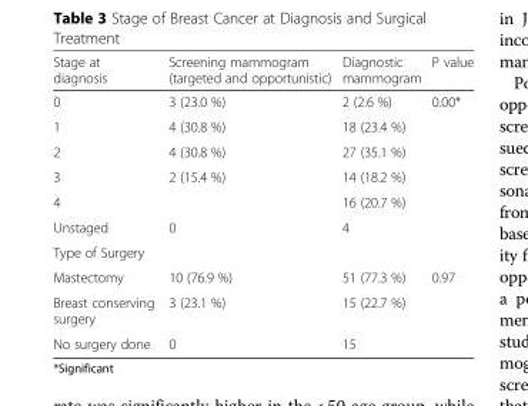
<table><thead><tr><td>Stage at diagnosis</td><td>Screening mammogram (targeted and opportunistic)</td><td>Diagnostic mammogram</td><td>P value</td></tr></thead><tbody><tr><td>0</td><td>3 (23.0 %)</td><td>2 (2.6 %)</td><td rowspan="5">0.00*</td></tr><tr><td>1</td><td>4 (30.8 %)</td><td>18 (23.4 %)</td></tr><tr><td>2</td><td>4 (30.8 %)</td><td>27 (35.1 %)</td></tr><tr><td>3</td><td>2 (15.4 %)</td><td>14 (18.2 %)</td></tr><tr><td>4</td><td></td><td>16 (20.7 %)</td></tr><tr><td>Unstaged</td><td>0</td><td>4</td><td></td></tr><tr><td colspan="4">Type of Surgery</td></tr><tr><td>Mastectomy</td><td>10 (76.9 %)</td><td>51 (77.3 %)</td><td rowspan="2">0.97</td></tr><tr><td>Breast conserving surgery</td><td>3 (23.1 %)</td><td>15 (22.7 %)</td></tr><tr><td>No surgery done</td><td>0</td><td>15</td><td></td></tr></tbody></table>